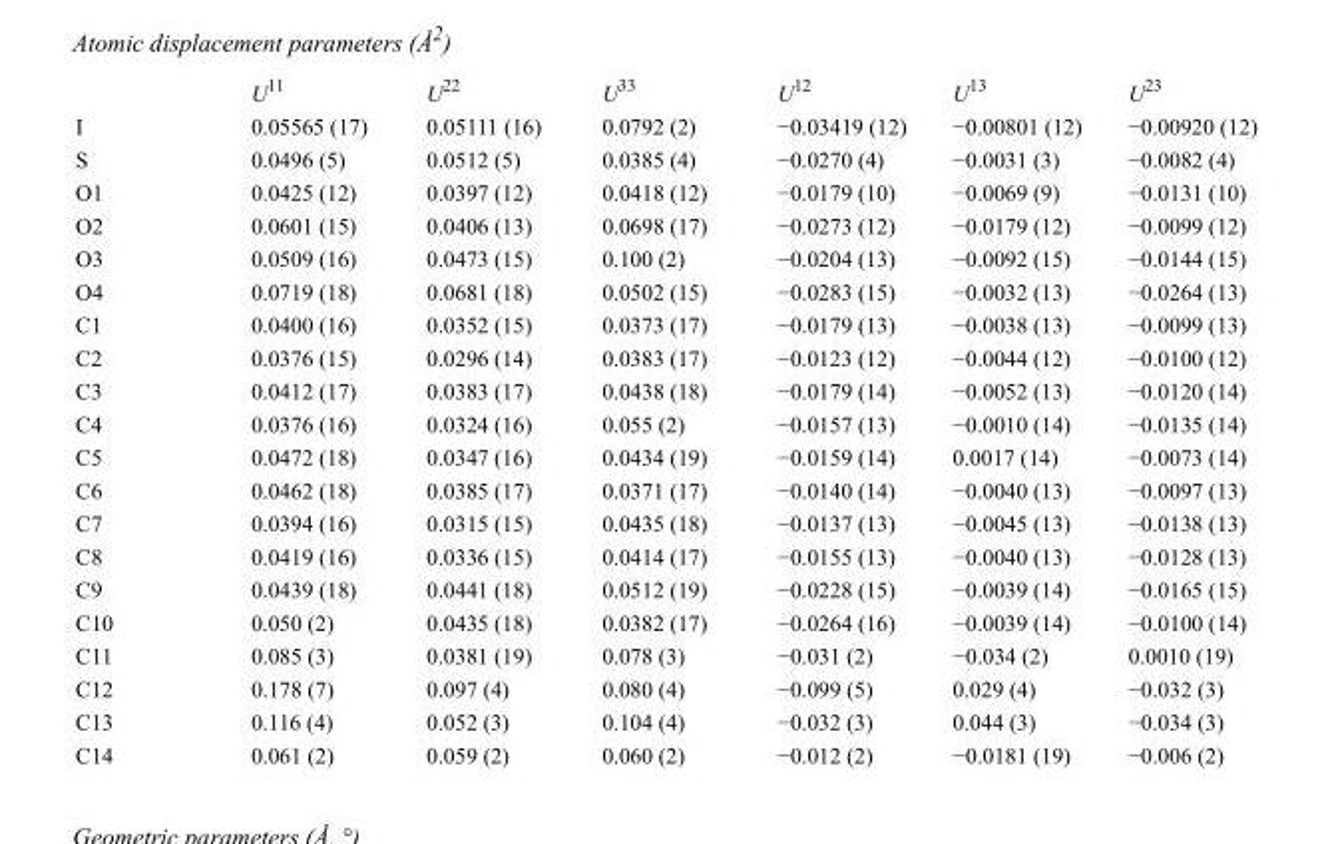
<table><thead><tr><td></td><td>U<sup>11</sup></td><td>U<sup>22</sup></td><td>U<sup>33</sup></td><td>U<sup>12</sup></td><td>U<sup>13</sup></td><td>U<sup>23</sup></td></tr></thead><tbody><tr><td>I</td><td>0.05565 (17)</td><td>0.05111 (16)</td><td>0.0792 (2)</td><td>−0.03419 (12)</td><td>−0.00801 (12)</td><td>−0.00920 (12)</td></tr><tr><td>S</td><td>0.0496 (5)</td><td>0.0512 (5)</td><td>0.0385 (4)</td><td>−0.0270 (4)</td><td>−0.0031 (3)</td><td>−0.0082 (4)</td></tr><tr><td>O1</td><td>0.0425 (12)</td><td>0.0397 (12)</td><td>0.0418 (12)</td><td>−0.0179 (10)</td><td>−0.0069 (9)</td><td>−0.0131 (10)</td></tr><tr><td>O2</td><td>0.0601 (15)</td><td>0.0406 (13)</td><td>0.0698 (17)</td><td>−0.0273 (12)</td><td>−0.0179 (12)</td><td>−0.0099 (12)</td></tr><tr><td>O3</td><td>0.0509 (16)</td><td>0.0473 (15)</td><td>0.100 (2)</td><td>−0.0204 (13)</td><td>−0.0092 (15)</td><td>−0.0144 (15)</td></tr><tr><td>O4</td><td>0.0719 (18)</td><td>0.0681 (18)</td><td>0.0502 (15)</td><td>−0.0283 (15)</td><td>−0.0032 (13)</td><td>−0.0264 (13)</td></tr><tr><td>C1</td><td>0.0400 (16)</td><td>0.0352 (15)</td><td>0.0373 (17)</td><td>−0.0179 (13)</td><td>−0.0038 (13)</td><td>−0.0099 (13)</td></tr><tr><td>C2</td><td>0.0376 (15)</td><td>0.0296 (14)</td><td>0.0383 (17)</td><td>−0.0123 (12)</td><td>−0.0044 (12)</td><td>−0.0100 (12)</td></tr><tr><td>C3</td><td>0.0412 (17)</td><td>0.0383 (17)</td><td>0.0438 (18)</td><td>−0.0179 (14)</td><td>−0.0052 (13)</td><td>−0.0120 (14)</td></tr><tr><td>C4</td><td>0.0376 (16)</td><td>0.0324 (16)</td><td>0.055 (2)</td><td>−0.0157 (13)</td><td>−0.0010 (14)</td><td>−0.0135 (14)</td></tr><tr><td>C5</td><td>0.0472 (18)</td><td>0.0347 (16)</td><td>0.0434 (19)</td><td>−0.0159 (14)</td><td>0.0017 (14)</td><td>−0.0073 (14)</td></tr><tr><td>C6</td><td>0.0462 (18)</td><td>0.0385 (17)</td><td>0.0371 (17)</td><td>−0.0140 (14)</td><td>−0.0040 (13)</td><td>−0.0097 (13)</td></tr><tr><td>C7</td><td>0.0394 (16)</td><td>0.0315 (15)</td><td>0.0435 (18)</td><td>−0.0137 (13)</td><td>−0.0045 (13)</td><td>−0.0138 (13)</td></tr><tr><td>C8</td><td>0.0419 (16)</td><td>0.0336 (15)</td><td>0.0414 (17)</td><td>−0.0155 (13)</td><td>−0.0040 (13)</td><td>−0.0128 (13)</td></tr><tr><td>C9</td><td>0.0439 (18)</td><td>0.0441 (18)</td><td>0.0512 (19)</td><td>−0.0228 (15)</td><td>−0.0039 (14)</td><td>−0.0165 (15)</td></tr><tr><td>C10</td><td>0.050 (2)</td><td>0.0435 (18)</td><td>0.0382 (17)</td><td>−0.0264 (16)</td><td>−0.0039 (14)</td><td>−0.0100 (14)</td></tr><tr><td>C11</td><td>0.085 (3)</td><td>0.0381 (19)</td><td>0.078 (3)</td><td>−0.031 (2)</td><td>−0.034 (2)</td><td>0.0010 (19)</td></tr><tr><td>C12</td><td>0.178 (7)</td><td>0.097 (4)</td><td>0.080 (4)</td><td>−0.099 (5)</td><td>0.029 (4)</td><td>−0.032 (3)</td></tr><tr><td>C13</td><td>0.116 (4)</td><td>0.052 (3)</td><td>0.104 (4)</td><td>−0.032 (3)</td><td>0.044 (3)</td><td>−0.034 (3)</td></tr><tr><td>C14</td><td>0.061 (2)</td><td>0.059 (2)</td><td>0.060 (2)</td><td>−0.012 (2)</td><td>−0.0181 (19)</td><td>−0.006 (2)</td></tr></tbody></table>